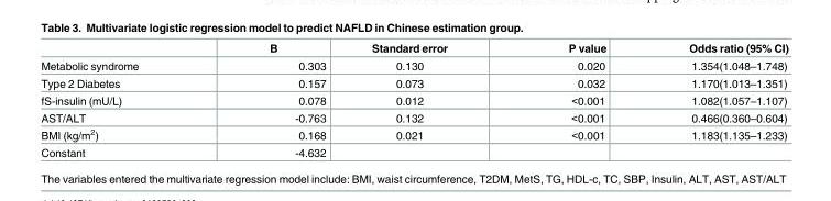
<table><thead><tr><td></td><td>B</td><td>Standard error</td><td>P value</td><td>Odds ratio (95% CI)</td></tr></thead><tbody><tr><td>Metabolic syndrome</td><td>0.303</td><td>0.130</td><td>0.020</td><td>1.354(1.048–1.748)</td></tr><tr><td>Type 2 Diabetes</td><td>0.157</td><td>0.073</td><td>0.032</td><td>1.170(1.013–1.351)</td></tr><tr><td>fS-insulin (mU/L)</td><td>0.078</td><td>0.012</td><td>&lt;0.001</td><td>1.082(1.057–1.107)</td></tr><tr><td>AST/ALT</td><td>-0.763</td><td>0.132</td><td>&lt;0.001</td><td>0.466(0.360–0.604)</td></tr><tr><td>BMI (kg/m<sup>2</sup>)</td><td>0.168</td><td>0.021</td><td>&lt;0.001</td><td>1.183(1.135–1.233)</td></tr><tr><td>Constant</td><td>-4.632</td><td></td><td></td><td></td></tr></tbody></table>